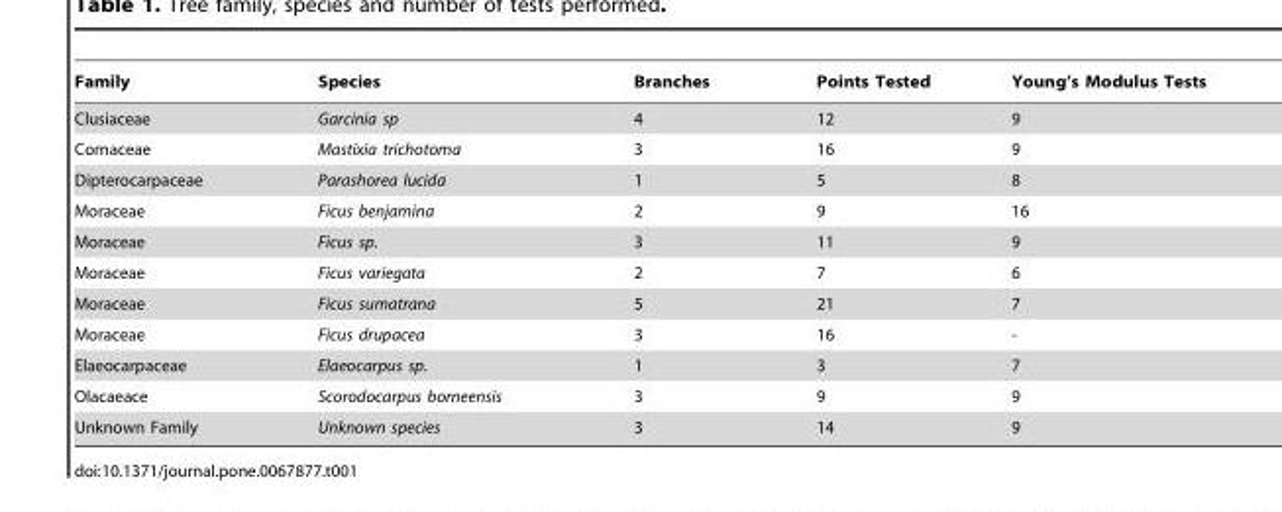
<table><thead><tr><td>Family</td><td>Species</td><td>Branches</td><td>Points Tested</td><td>Young’s Modulus Tests</td></tr></thead><tbody><tr><td>Clusiaceae</td><td>Garcinia sp</td><td>4</td><td>12</td><td>9</td></tr><tr><td>Cornaceae</td><td>Mastixia trichotoma</td><td>3</td><td>16</td><td>9</td></tr><tr><td>Dipterocarpaceae</td><td>Parashorea lucida</td><td>1</td><td>5</td><td>8</td></tr><tr><td>Moraceae</td><td>Ficus benjamina</td><td>2</td><td>9</td><td>16</td></tr><tr><td>Moraceae</td><td>Ficus sp.</td><td>3</td><td>11</td><td>9</td></tr><tr><td>Moraceae</td><td>Ficus variegata</td><td>2</td><td>7</td><td>6</td></tr><tr><td>Moraceae</td><td>Ficus sumatrana</td><td>5</td><td>21</td><td>7</td></tr><tr><td>Moraceae</td><td>Ficus drupacea</td><td>3</td><td>16</td><td>-</td></tr><tr><td>Elaeocarpaceae</td><td>Elaeocarpus sp.</td><td>1</td><td>3</td><td>7</td></tr><tr><td>Olacaeace</td><td>Scorodocarpus borneensis</td><td>3</td><td>9</td><td>9</td></tr><tr><td>Unknown Family</td><td>Unknown species</td><td>3</td><td>14</td><td>9</td></tr></tbody></table>